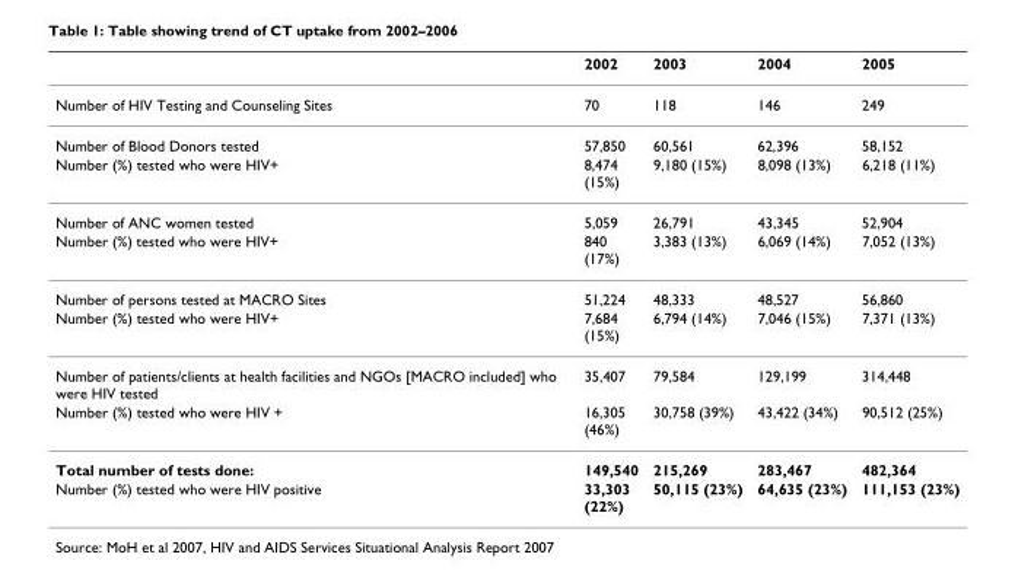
<table><thead><tr><td></td><td>2002</td><td>2003</td><td>2004</td><td>2005</td></tr></thead><tbody><tr><td>Number of HIV Testing and Counseling Sites</td><td>70</td><td>118</td><td>146</td><td>249</td></tr><tr><td>Number of Blood Donors tested</td><td>57,850</td><td>60,561</td><td>62,396</td><td>58,152</td></tr><tr><td>Number (%) tested who were HIV+</td><td>8,474 (15%)</td><td>9,180 (15%)</td><td>8,098 (13%)</td><td>6,218 (11%)</td></tr><tr><td>Number of ANC women tested</td><td>5,059</td><td>26,791</td><td>43,345</td><td>52,904</td></tr><tr><td>Number (%) tested who were HIV+</td><td>840 (17%)</td><td>3,383 (13%)</td><td>6,069 (14%)</td><td>7,052 (13%)</td></tr><tr><td>Number of persons tested at MACRO Sites</td><td>51,224</td><td>48,333</td><td>48,527</td><td>56,860</td></tr><tr><td>Number (%) tested who were HIV+</td><td>7,684 (15%)</td><td>6,794 (14%)</td><td>7,046 (15%)</td><td>7,371 (13%)</td></tr><tr><td>Number of patients/clients at health facilities and NGOs [MACRO included] who were HIV tested</td><td>35,407</td><td>79,584</td><td>129,199</td><td>314,448</td></tr><tr><td>Number (%) tested who were HIV +</td><td>16,305 (46%)</td><td>30,758 (39%)</td><td>43,422 (34%)</td><td>90,512 (25%)</td></tr><tr><td>Total number of tests done:</td><td>149,540</td><td>215,269</td><td>283,467</td><td>482,364</td></tr><tr><td>Number (%) tested who were HIV positive</td><td>33,303 (22%)</td><td>50,115 (23%)</td><td>64,635 (23%)</td><td>111,153 (23%)</td></tr></tbody></table>